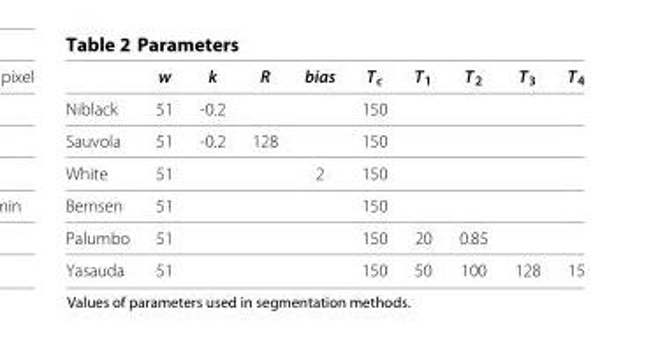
<table><thead><tr><td></td><td>w</td><td>k</td><td>R</td><td>bias</td><td>T<sub>c</sub></td><td>T<sub>1</sub></td><td>T<sub>2</sub></td><td>T<sub>3</sub></td><td>T<sub>4</sub></td></tr></thead><tbody><tr><td>Niblack</td><td>51</td><td>-0.2</td><td></td><td></td><td>150</td><td></td><td></td><td></td><td></td></tr><tr><td>Sauvola</td><td>51</td><td>-0.2</td><td>128</td><td></td><td>150</td><td></td><td></td><td></td><td></td></tr><tr><td>White</td><td>51</td><td></td><td></td><td>2</td><td>150</td><td></td><td></td><td></td><td></td></tr><tr><td>Bernsen</td><td>51</td><td></td><td></td><td></td><td>150</td><td></td><td></td><td></td><td></td></tr><tr><td>Palumbo</td><td>51</td><td></td><td></td><td></td><td>150</td><td>20</td><td>0.85</td><td></td><td></td></tr><tr><td>Yasauda</td><td>51</td><td></td><td></td><td></td><td>150</td><td>50</td><td>100</td><td>128</td><td>15</td></tr></tbody></table>